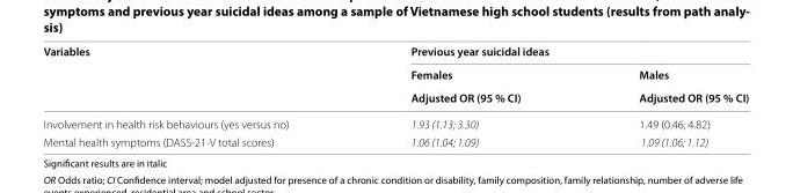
<table><thead><tr><td rowspan="3">Variables</td><td colspan="2">Previous year suicidal ideas</td></tr><tr><td rowspan="2">Females Adjusted OR (95 % CI)</td><td rowspan="2">Males Adjusted OR (95 % CI)</td></tr><tr></tr></thead><tbody><tr><td>Involvement in health risk behaviours (yes versus no)</td><td>1.93 (1.13; 3.30)</td><td>1.49 (0.46; 4.82)</td></tr><tr><td>Mental health symptoms (DASS-21-V total scores)</td><td>1.06 (1.04; 1.09)</td><td>1.09 (1.06; 1.12)</td></tr></tbody></table>